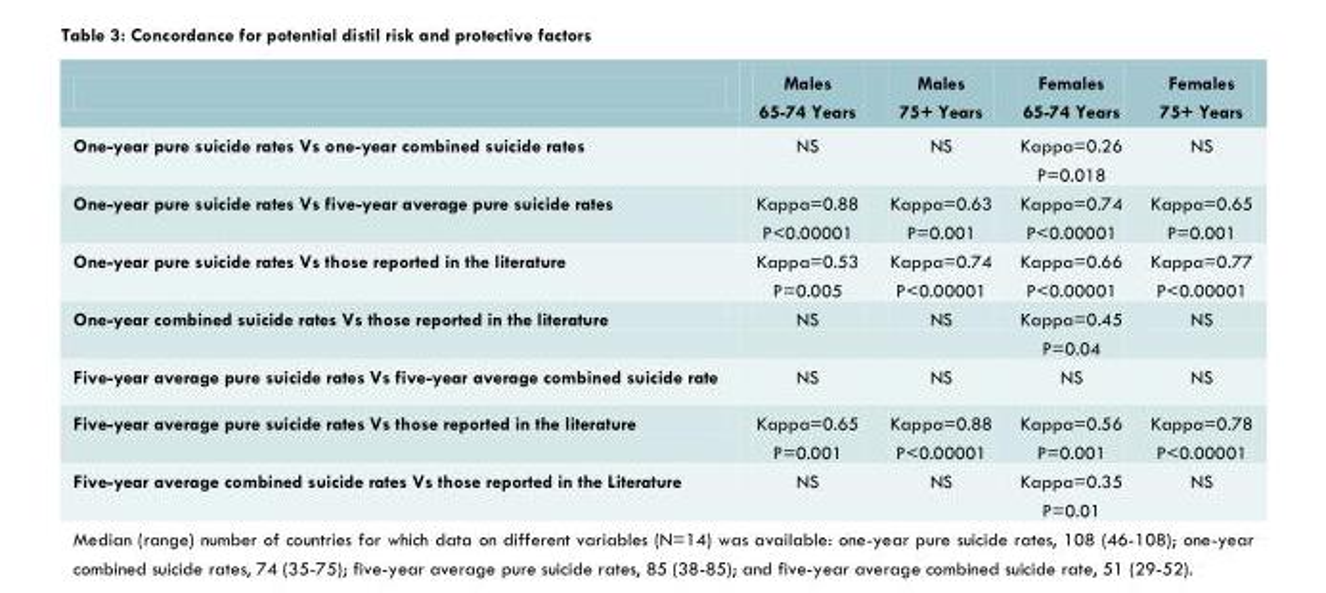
<table><thead><tr><td></td><td>Males 65-74 Years</td><td>Males 75+ Years</td><td>Females 65-74 Years</td><td>Females 75+ Years</td></tr></thead><tbody><tr><td>One-year pure suicide rates Vs one-year combined suicide rates</td><td>NS</td><td>NS</td><td>Kappa=0.26 P=0.018</td><td>NS</td></tr><tr><td>One-year pure suicide rates Vs five-year average pure suicide rates</td><td>Kappa=0.88 P&lt;0.00001</td><td>Kappa=0.63 P=0.001</td><td>Kappa=0.74 P&lt;0.00001</td><td>Kappa=0.65 P=0.001</td></tr><tr><td>One-year pure suicide rates Vs those reported in the literature</td><td>Kappa=0.53 P=0.005</td><td>Kappa=0.74 P&lt;0.00001</td><td>Kappa=0.66 P&lt;0.00001</td><td>Kappa=0.77 P&lt;0.00001</td></tr><tr><td>One-year combined suicide rates Vs those reported in the literature</td><td>NS</td><td>NS</td><td>Kappa=0.45 P=0.04</td><td>NS</td></tr><tr><td>Five-year average pure suicide rates Vs five-year average combined suicide rate</td><td>NS</td><td>NS</td><td>NS</td><td>NS</td></tr><tr><td>Five-year average pure suicide rates Vs those reported in the literature</td><td>Kappa=0.65 P=0.001</td><td>Kappa=0.88 P&lt;0.00001</td><td>Kappa=0.56 P=0.001</td><td>Kappa=0.78 P&lt;0.00001</td></tr><tr><td>Five-year average combined suicide rates Vs those reported in the Literature</td><td>NS</td><td>NS</td><td>Kappa=0.35 P=0.01</td><td>NS</td></tr></tbody></table>